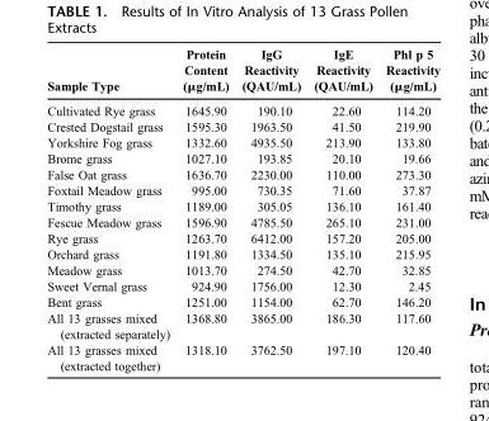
<table><thead><tr><td>Sample Type</td><td>Protein Content (μg/mL)</td><td>IgG Reactivity (QAU/mL)</td><td>IgE Reactivity (QAU/mL)</td><td>Phl p 5 Reactivity (μg/mL)</td></tr></thead><tbody><tr><td>Cultivated Rye grass</td><td>1645.90</td><td>190.10</td><td>22.60</td><td>114.20</td></tr><tr><td>Crested Dogstail grass</td><td>1595.30</td><td>1963.50</td><td>41.50</td><td>219.90</td></tr><tr><td>Yorkshire Fog grass</td><td>1332.60</td><td>4935.50</td><td>213.90</td><td>133.80</td></tr><tr><td>Brome grass</td><td>1027.10</td><td>193.85</td><td>20.10</td><td>19.66</td></tr><tr><td>False Oat grass</td><td>1636.70</td><td>2230.00</td><td>110.00</td><td>273.30</td></tr><tr><td>Foxtail Meadow grass</td><td>995.00</td><td>730.35</td><td>71.60</td><td>37.87</td></tr><tr><td>Timothy grass</td><td>1189.00</td><td>305.05</td><td>136.10</td><td>161.40</td></tr><tr><td>Fescue Meadow grass</td><td>1596.90</td><td>4785.50</td><td>265.10</td><td>231.00</td></tr><tr><td>Rye grass</td><td>1263.70</td><td>6412.00</td><td>157.20</td><td>205.00</td></tr><tr><td>Orchard grass</td><td>1191.80</td><td>1334.50</td><td>135.10</td><td>215.95</td></tr><tr><td>Meadow grass</td><td>1013.70</td><td>274.50</td><td>42.70</td><td>32.85</td></tr><tr><td>Sweet Vernal grass</td><td>924.90</td><td>1756.00</td><td>12.30</td><td>2.45</td></tr><tr><td>Bent grass</td><td>1251.00</td><td>1154.00</td><td>62.70</td><td>146.20</td></tr><tr><td>All 13 grasses mixed (extracted separately)</td><td>1368.80</td><td>3865.00</td><td>186.30</td><td>117.60</td></tr><tr><td>All 13 grasses mixed (extracted together)</td><td>1318.10</td><td>3762.50</td><td>197.10</td><td>120.40</td></tr></tbody></table>